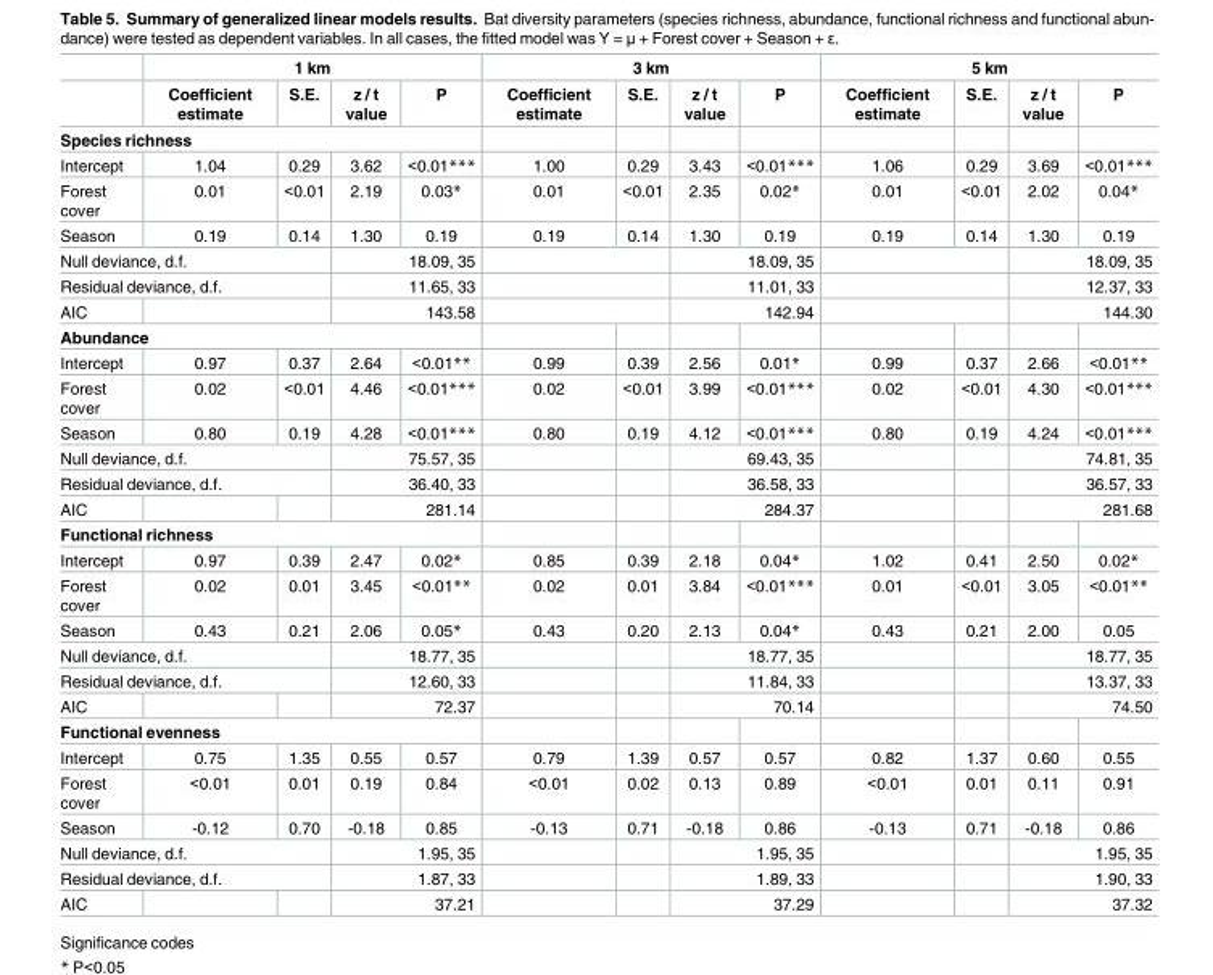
<table><thead><tr><td rowspan="2"></td><td colspan="4">1 km</td><td colspan="4">3 km</td><td colspan="4">5 km</td></tr><tr><td>Coefficient estimate</td><td>S.E.</td><td>z / t value</td><td>P</td><td>Coefficient estimate</td><td>S.E.</td><td>z / t value</td><td>P</td><td>Coefficient estimate</td><td>S.E.</td><td>z / t value</td><td>P</td></tr></thead><tbody><tr><td colspan="13">Species richness</td></tr><tr><td>Intercept</td><td>1.04</td><td>0.29</td><td>3.62</td><td>&lt;0.01***</td><td>1.00</td><td>0.29</td><td>3.43</td><td>&lt;0.01***</td><td>1.06</td><td>0.29</td><td>3.69</td><td>&lt;0.01***</td></tr><tr><td>Forest cover</td><td>0.01</td><td>&lt;0.01</td><td>2.19</td><td>0.03*</td><td>0.01</td><td>&lt;0.01</td><td>2.35</td><td>0.02*</td><td>0.01</td><td>&lt;0.01</td><td>2.02</td><td>0.04*</td></tr><tr><td>Season</td><td>0.19</td><td>0.14</td><td>1.30</td><td>0.19</td><td>0.19</td><td>0.14</td><td>1.30</td><td>0.19</td><td>0.19</td><td>0.14</td><td>1.30</td><td>0.19</td></tr><tr><td colspan="3">Null deviance, d.f.</td><td colspan="2">18.09, 35</td><td colspan="2"></td><td colspan="2">18.09, 35</td><td colspan="2"></td><td colspan="2">18.09, 35</td></tr><tr><td colspan="3">Residual deviance, d.f.</td><td colspan="2">11.65, 33</td><td colspan="2"></td><td colspan="2">11.01, 33</td><td colspan="2"></td><td colspan="2">12.37, 33</td></tr><tr><td>AIC</td><td colspan="2"></td><td colspan="2">143.58</td><td colspan="2"></td><td colspan="2">142.94</td><td colspan="2"></td><td colspan="2">144.30</td></tr><tr><td colspan="13">Abundance</td></tr><tr><td>Intercept</td><td>0.97</td><td>0.37</td><td>2.64</td><td>&lt;0.01**</td><td>0.99</td><td>0.39</td><td>2.56</td><td>0.01*</td><td>0.99</td><td>0.37</td><td>2.66</td><td>&lt;0.01**</td></tr><tr><td>Forest cover</td><td>0.02</td><td>&lt;0.01</td><td>4.46</td><td>&lt;0.01***</td><td>0.02</td><td>&lt;0.01</td><td>3.99</td><td>&lt;0.01***</td><td>0.02</td><td>&lt;0.01</td><td>4.30</td><td>&lt;0.01***</td></tr><tr><td>Season</td><td>0.80</td><td>0.19</td><td>4.28</td><td>&lt;0.01***</td><td>0.80</td><td>0.19</td><td>4.12</td><td>&lt;0.01***</td><td>0.80</td><td>0.19</td><td>4.24</td><td>&lt;0.01***</td></tr><tr><td colspan="3">Null deviance, d.f.</td><td colspan="2">75.57, 35</td><td></td><td></td><td colspan="2">69.43, 35</td><td></td><td></td><td colspan="2">74.81, 35</td></tr><tr><td colspan="3">Residual deviance, d.f.</td><td colspan="2">36.40, 33</td><td></td><td></td><td colspan="2">36.58, 33</td><td></td><td></td><td colspan="2">36.57, 33</td></tr><tr><td>AIC</td><td></td><td></td><td colspan="2">281.14</td><td></td><td></td><td colspan="2">284.37</td><td></td><td></td><td colspan="2">281.68</td></tr><tr><td colspan="13">Functional richness</td></tr><tr><td>Intercept</td><td>0.97</td><td>0.39</td><td>2.47</td><td>0.02*</td><td>0.85</td><td>0.39</td><td>2.18</td><td>0.04*</td><td>1.02</td><td>0.41</td><td>2.50</td><td>0.02*</td></tr><tr><td>Forest cover</td><td>0.02</td><td>0.01</td><td>3.45</td><td>&lt;0.01**</td><td>0.02</td><td>0.01</td><td>3.84</td><td>&lt;0.01***</td><td>0.01</td><td>&lt;0.01</td><td>3.05</td><td>&lt;0.01**</td></tr><tr><td>Season</td><td>0.43</td><td>0.21</td><td>2.06</td><td>0.05*</td><td>0.43</td><td>0.20</td><td>2.13</td><td>0.04*</td><td>0.43</td><td>0.21</td><td>2.00</td><td>0.05</td></tr><tr><td colspan="3">Null deviance, d.f.</td><td colspan="2">18.77, 35</td><td></td><td></td><td colspan="2">18.77, 35</td><td></td><td></td><td colspan="2">18.77, 35</td></tr><tr><td colspan="3">Residual deviance, d.f.</td><td colspan="2">12.60, 33</td><td></td><td></td><td colspan="2">11.84, 33</td><td></td><td></td><td colspan="2">13.37, 33</td></tr><tr><td>AIC</td><td></td><td></td><td colspan="2">72.37</td><td></td><td></td><td colspan="2">70.14</td><td></td><td></td><td colspan="2">74.50</td></tr><tr><td colspan="13">Functional evenness</td></tr><tr><td>Intercept</td><td>0.75</td><td>1.35</td><td>0.55</td><td>0.57</td><td>0.79</td><td>1.39</td><td>0.57</td><td>0.57</td><td>0.82</td><td>1.37</td><td>0.60</td><td>0.55</td></tr><tr><td>Forest cover</td><td>&lt;0.01</td><td>0.01</td><td>0.19</td><td>0.84</td><td>&lt;0.01</td><td>0.02</td><td>0.13</td><td>0.89</td><td>&lt;0.01</td><td>0.01</td><td>0.11</td><td>0.91</td></tr><tr><td>Season</td><td>-0.12</td><td>0.70</td><td>-0.18</td><td>0.85</td><td>-0.13</td><td>0.71</td><td>-0.18</td><td>0.86</td><td>-0.13</td><td>0.71</td><td>-0.18</td><td>0.86</td></tr><tr><td colspan="3">Null deviance, d.f.</td><td colspan="2">1.95, 35</td><td></td><td></td><td colspan="2">1.95, 35</td><td></td><td></td><td colspan="2">1.95, 35</td></tr><tr><td colspan="3">Residual deviance, d.f.</td><td colspan="2">1.87, 33</td><td></td><td></td><td colspan="2">1.89, 33</td><td></td><td></td><td colspan="2">1.90, 33</td></tr><tr><td>AIC</td><td></td><td></td><td colspan="2">37.21</td><td></td><td></td><td colspan="2">37.29</td><td></td><td></td><td colspan="2">37.32</td></tr></tbody></table>